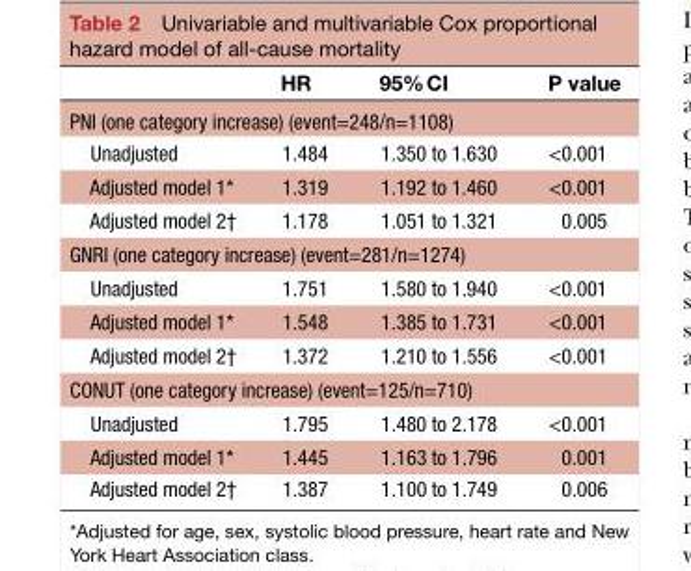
<table><thead><tr><td></td><td>HR</td><td>95% CI</td><td>P value</td></tr></thead><tbody><tr><td colspan="4">PNI (one category increase) (event=248/n=1108)</td></tr><tr><td>Unadjusted</td><td>1.484</td><td>1.350 to 1.630</td><td>&lt;0.001</td></tr><tr><td>Adjusted model 1*</td><td>1.319</td><td>1.192 to 1.460</td><td>&lt;0.001</td></tr><tr><td>Adjusted model 2†</td><td>1.178</td><td>1.051 to 1.321</td><td>0.005</td></tr><tr><td colspan="4">GNRI (one category increase) (event=281/n=1274)</td></tr><tr><td>Unadjusted</td><td>1.751</td><td>1.580 to 1.940</td><td>&lt;0.001</td></tr><tr><td>Adjusted model 1*</td><td>1.548</td><td>1.385 to 1.731</td><td>&lt;0.001</td></tr><tr><td>Adjusted model 2†</td><td>1.372</td><td>1.210 to 1.556</td><td>&lt;0.001</td></tr><tr><td colspan="4">CONUT (one category increase) (event=125/n=710)</td></tr><tr><td>Unadjusted</td><td>1.795</td><td>1.480 to 2.178</td><td>&lt;0.001</td></tr><tr><td>Adjusted model 1*</td><td>1.445</td><td>1.163 to 1.796</td><td>0.001</td></tr><tr><td>Adjusted model 2†</td><td>1.387</td><td>1.100 to 1.749</td><td>0.006</td></tr></tbody></table>